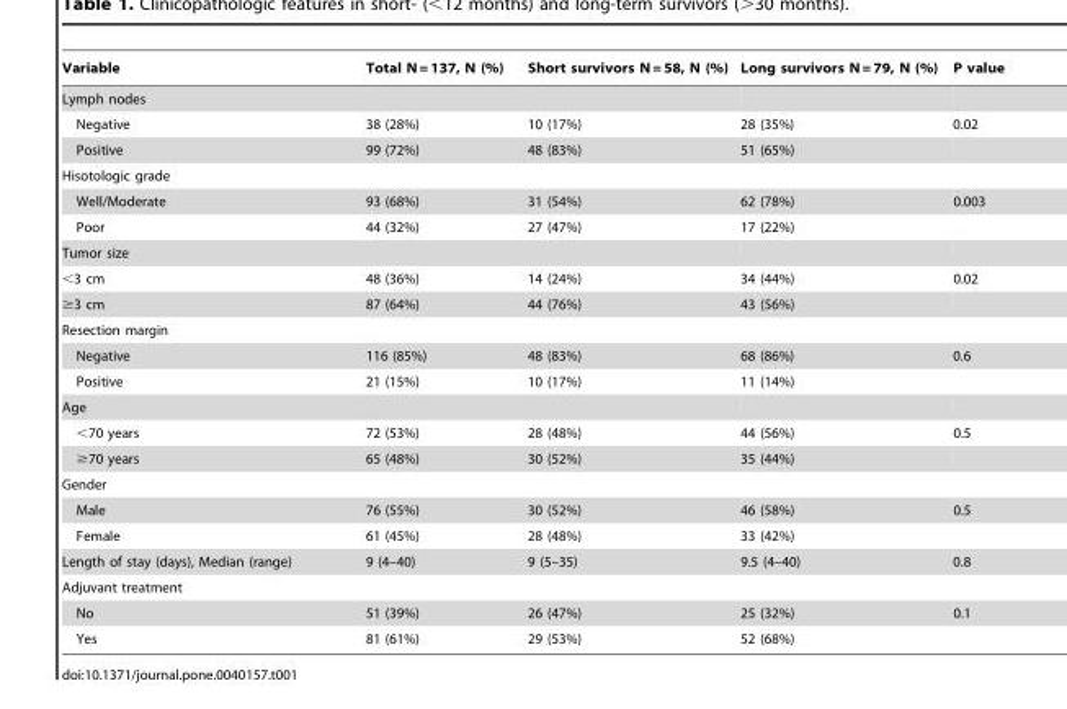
<table><thead><tr><td>Variable</td><td>Total N = 137, N (%)</td><td>Short survivors N = 58, N (%)</td><td>Long survivors N = 79, N (%)</td><td>P value</td></tr></thead><tbody><tr><td colspan="5">Lymph nodes</td></tr><tr><td>Negative</td><td>38 (28%)</td><td>10 (17%)</td><td>28 (35%)</td><td>0.02</td></tr><tr><td>Positive</td><td>99 (72%)</td><td>48 (83%)</td><td>51 (65%)</td><td></td></tr><tr><td colspan="5">Hisotologic grade</td></tr><tr><td>Well/Moderate</td><td>93 (68%)</td><td>31 (54%)</td><td>62 (78%)</td><td>0.003</td></tr><tr><td>Poor</td><td>44 (32%)</td><td>27 (47%)</td><td>17 (22%)</td><td></td></tr><tr><td colspan="5">Tumor size</td></tr><tr><td>&lt;3 cm</td><td>48 (36%)</td><td>14 (24%)</td><td>34 (44%)</td><td>0.02</td></tr><tr><td>≥3 cm</td><td>87 (64%)</td><td>44 (76%)</td><td>43 (56%)</td><td></td></tr><tr><td colspan="5">Resection margin</td></tr><tr><td>Negative</td><td>116 (85%)</td><td>48 (83%)</td><td>68 (86%)</td><td>0.6</td></tr><tr><td>Positive</td><td>21 (15%)</td><td>10 (17%)</td><td>11 (14%)</td><td></td></tr><tr><td colspan="5">Age</td></tr><tr><td>&lt;70 years</td><td>72 (53%)</td><td>28 (48%)</td><td>44 (56%)</td><td>0.5</td></tr><tr><td>≥70 years</td><td>65 (48%)</td><td>30 (52%)</td><td>35 (44%)</td><td></td></tr><tr><td colspan="5">Gender</td></tr><tr><td>Male</td><td>76 (55%)</td><td>30 (52%)</td><td>46 (58%)</td><td>0.5</td></tr><tr><td>Female</td><td>61 (45%)</td><td>28 (48%)</td><td>33 (42%)</td><td></td></tr><tr><td>Length of stay (days), Median (range)</td><td>9 (4–40)</td><td>9 (5–35)</td><td>9.5 (4–40)</td><td>0.8</td></tr><tr><td colspan="5">Adjuvant treatment</td></tr><tr><td>No</td><td>51 (39%)</td><td>26 (47%)</td><td>25 (32%)</td><td>0.1</td></tr><tr><td>Yes</td><td>81 (61%)</td><td>29 (53%)</td><td>52 (68%)</td><td></td></tr></tbody></table>